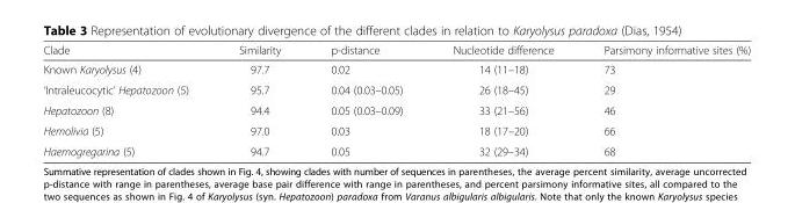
<table><thead><tr><td>Clade</td><td>Similarity</td><td>p-distance</td><td>Nucleotide difference</td><td>Parsimony informative sites (%)</td></tr></thead><tbody><tr><td>Known Karyolysus (4)</td><td>97.7</td><td>0.02</td><td>14 (11–18)</td><td>73</td></tr><tr><td>‘Intraleucocytic’ Hepatozoon (5)</td><td>95.7</td><td>0.04 (0.03–0.05)</td><td>26 (18–45)</td><td>29</td></tr><tr><td>Hepatozoon (8)</td><td>94.4</td><td>0.05 (0.03–0.09)</td><td>33 (21–56)</td><td>46</td></tr><tr><td>Hemolivia (5)</td><td>97.0</td><td>0.03</td><td>18 (17–20)</td><td>66</td></tr><tr><td>Haemogregarina (5)</td><td>94.7</td><td>0.05</td><td>32 (29–34)</td><td>68</td></tr></tbody></table>